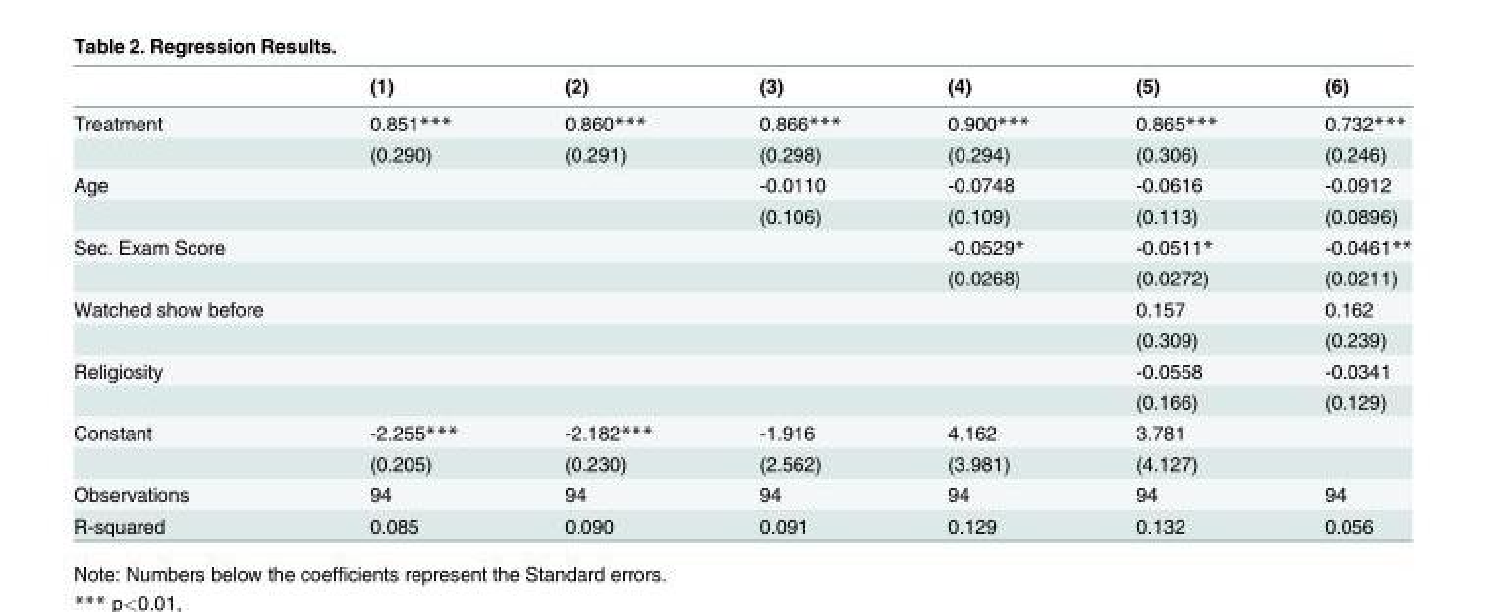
<table><thead><tr><td></td><td>(1)</td><td>(2)</td><td>(3)</td><td>(4)</td><td>(5)</td><td>(6)</td></tr></thead><tbody><tr><td rowspan="2">Treatment</td><td>0.851***</td><td>0.860***</td><td>0.866***</td><td>0.900***</td><td>0.865***</td><td>0.732***</td></tr><tr><td>(0.290)</td><td>(0.291)</td><td>(0.298)</td><td>(0.294)</td><td>(0.306)</td><td>(0.246)</td></tr><tr><td rowspan="2">Age</td><td></td><td></td><td>-0.0110</td><td>-0.0748</td><td>-0.0616</td><td>-0.0912</td></tr><tr><td></td><td></td><td>(0.106)</td><td>(0.109)</td><td>(0.113)</td><td>(0.0896)</td></tr><tr><td rowspan="2">Sec. Exam Score</td><td></td><td></td><td></td><td>-0.0529*</td><td>-0.0511*</td><td>-0.0461**</td></tr><tr><td></td><td></td><td></td><td>(0.0268)</td><td>(0.0272)</td><td>(0.0211)</td></tr><tr><td rowspan="2">Watched show before</td><td></td><td></td><td></td><td></td><td>0.157</td><td>0.162</td></tr><tr><td></td><td></td><td></td><td></td><td>(0.309)</td><td>(0.239)</td></tr><tr><td rowspan="2">Religiosity</td><td></td><td></td><td></td><td></td><td>-0.0558</td><td>-0.0341</td></tr><tr><td></td><td></td><td></td><td></td><td>(0.166)</td><td>(0.129)</td></tr><tr><td rowspan="2">Constant</td><td>-2.255***</td><td>-2.182***</td><td>-1.916</td><td>4.162</td><td>3.781</td><td></td></tr><tr><td>(0.205)</td><td>(0.230)</td><td>(2.562)</td><td>(3.981)</td><td>(4.127)</td><td></td></tr><tr><td>Observations</td><td>94</td><td>94</td><td>94</td><td>94</td><td>94</td><td>94</td></tr><tr><td>R-squared</td><td>0.085</td><td>0.090</td><td>0.091</td><td>0.129</td><td>0.132</td><td>0.056</td></tr></tbody></table>